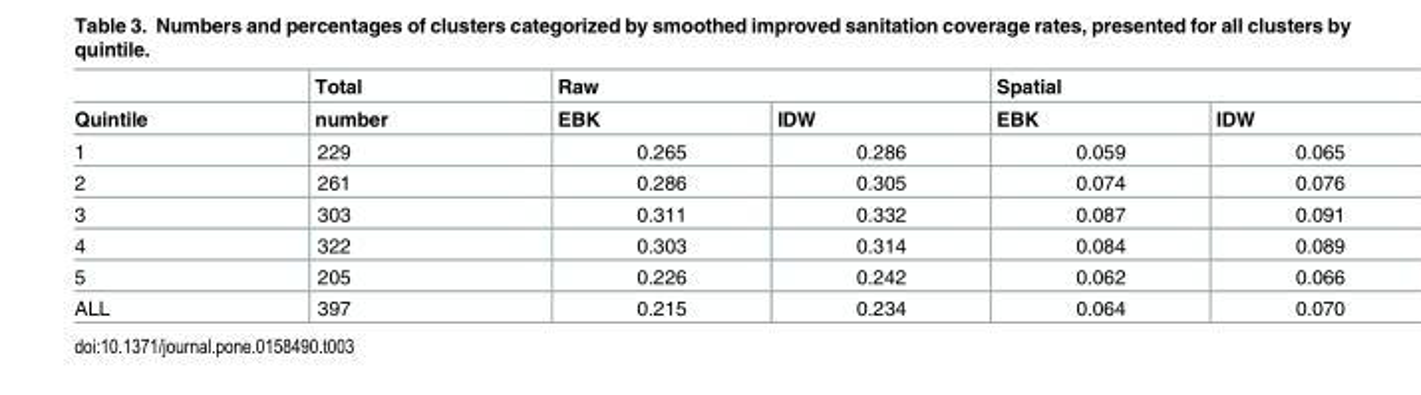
<table><thead><tr><td rowspan="2">Quintile</td><td rowspan="2">Total number</td><td colspan="2">Raw</td><td colspan="2">Spatial</td></tr><tr><td>EBK</td><td>IDW</td><td>EBK</td><td>IDW</td></tr></thead><tbody><tr><td>1</td><td>229</td><td>0.265</td><td>0.286</td><td>0.059</td><td>0.065</td></tr><tr><td>2</td><td>261</td><td>0.286</td><td>0.305</td><td>0.074</td><td>0.076</td></tr><tr><td>3</td><td>303</td><td>0.311</td><td>0.332</td><td>0.087</td><td>0.091</td></tr><tr><td>4</td><td>322</td><td>0.303</td><td>0.314</td><td>0.084</td><td>0.089</td></tr><tr><td>5</td><td>205</td><td>0.226</td><td>0.242</td><td>0.062</td><td>0.066</td></tr><tr><td>ALL</td><td>397</td><td>0.215</td><td>0.234</td><td>0.064</td><td>0.070</td></tr></tbody></table>